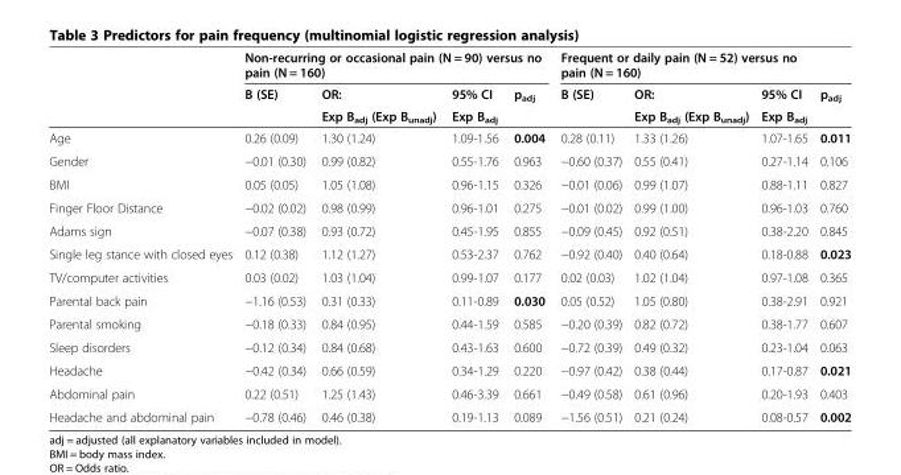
<table><thead><tr><td rowspan="3"></td><td colspan="4">Non-recurring or occasional pain (N = 90) versus no pain (N = 160)</td><td colspan="4">Frequent or daily pain (N = 52) versus no pain (N = 160)</td></tr><tr><td rowspan="2">B (SE)</td><td rowspan="2">OR: Exp B<sub>adj</sub> (Exp B<sub>unadj</sub>)</td><td rowspan="2">95% CI Exp B<sub>adj</sub></td><td rowspan="2">p<sub>adj</sub></td><td rowspan="2">B (SE)</td><td rowspan="2">OR: Exp B<sub>adj</sub> (Exp B<sub>unadj</sub>)</td><td rowspan="2">95% CI Exp B<sub>adj</sub></td><td rowspan="2">p<sub>adj</sub></td></tr><tr></tr></thead><tbody><tr><td>Age</td><td>0.26 (0.09)</td><td>1.30 (1.24)</td><td>1.09-1.56</td><td>0.004</td><td>0.28 (0.11)</td><td>1.33 (1.26)</td><td>1.07-1.65</td><td>0.011</td></tr><tr><td>Gender</td><td>−0.01 (0.30)</td><td>0.99 (0.82)</td><td>0.55-1.76</td><td>0.963</td><td>−0.60 (0.37)</td><td>0.55 (0.41)</td><td>0.27-1.14</td><td>0.106</td></tr><tr><td>BMI</td><td>0.05 (0.05)</td><td>1.05 (1.08)</td><td>0.96-1.15</td><td>0.326</td><td>−0.01 (0.06)</td><td>0.99 (1.07)</td><td>0.88-1.11</td><td>0.827</td></tr><tr><td>Finger Floor Distance</td><td>−0.02 (0.02)</td><td>0.98 (0.99)</td><td>0.96-1.01</td><td>0.275</td><td>−0.01 (0.02)</td><td>0.99 (1.00)</td><td>0.96-1.03</td><td>0.760</td></tr><tr><td>Adams sign</td><td>−0.07 (0.38)</td><td>0.93 (0.72)</td><td>0.45-1.95</td><td>0.855</td><td>−0.09 (0.45)</td><td>0.92 (0.51)</td><td>0.38-2.20</td><td>0.845</td></tr><tr><td>Single leg stance with closed eyes</td><td>0.12 (0.38)</td><td>1.12 (1.27)</td><td>0.53-2.37</td><td>0.762</td><td>−0.92 (0.40)</td><td>0.40 (0.64)</td><td>0.18-0.88</td><td>0.023</td></tr><tr><td>TV/computer activities</td><td>0.03 (0.02)</td><td>1.03 (1.04)</td><td>0.99-1.07</td><td>0.177</td><td>0.02 (0.03)</td><td>1.02 (1.04)</td><td>0.97-1.08</td><td>0.365</td></tr><tr><td>Parental back pain</td><td>−1.16 (0.53)</td><td>0.31 (0.33)</td><td>0.11-0.89</td><td>0.030</td><td>0.05 (0.52)</td><td>1.05 (0.80)</td><td>0.38-2.91</td><td>0.921</td></tr><tr><td>Parental smoking</td><td>−0.18 (0.33)</td><td>0.84 (0.95)</td><td>0.44-1.59</td><td>0.585</td><td>−0.20 (0.39)</td><td>0.82 (0.72)</td><td>0.38-1.77</td><td>0.607</td></tr><tr><td>Sleep disorders</td><td>−0.12 (0.34)</td><td>0.84 (0.68)</td><td>0.43-1.63</td><td>0.600</td><td>−0.72 (0.39)</td><td>0.49 (0.32)</td><td>0.23-1.04</td><td>0.063</td></tr><tr><td>Headache</td><td>−0.42 (0.34)</td><td>0.66 (0.59)</td><td>0.34-1.29</td><td>0.220</td><td>−0.97 (0.42)</td><td>0.38 (0.44)</td><td>0.17-0.87</td><td>0.021</td></tr><tr><td>Abdominal pain</td><td>0.22 (0.51)</td><td>1.25 (1.43)</td><td>0.46-3.39</td><td>0.661</td><td>−0.49 (0.58)</td><td>0.61 (0.96)</td><td>0.20-1.93</td><td>0.403</td></tr><tr><td>Headache and abdominal pain</td><td>−0.78 (0.46)</td><td>0.46 (0.38)</td><td>0.19-1.13</td><td>0.089</td><td>−1.56 (0.51)</td><td>0.21 (0.24)</td><td>0.08-0.57</td><td>0.002</td></tr></tbody></table>